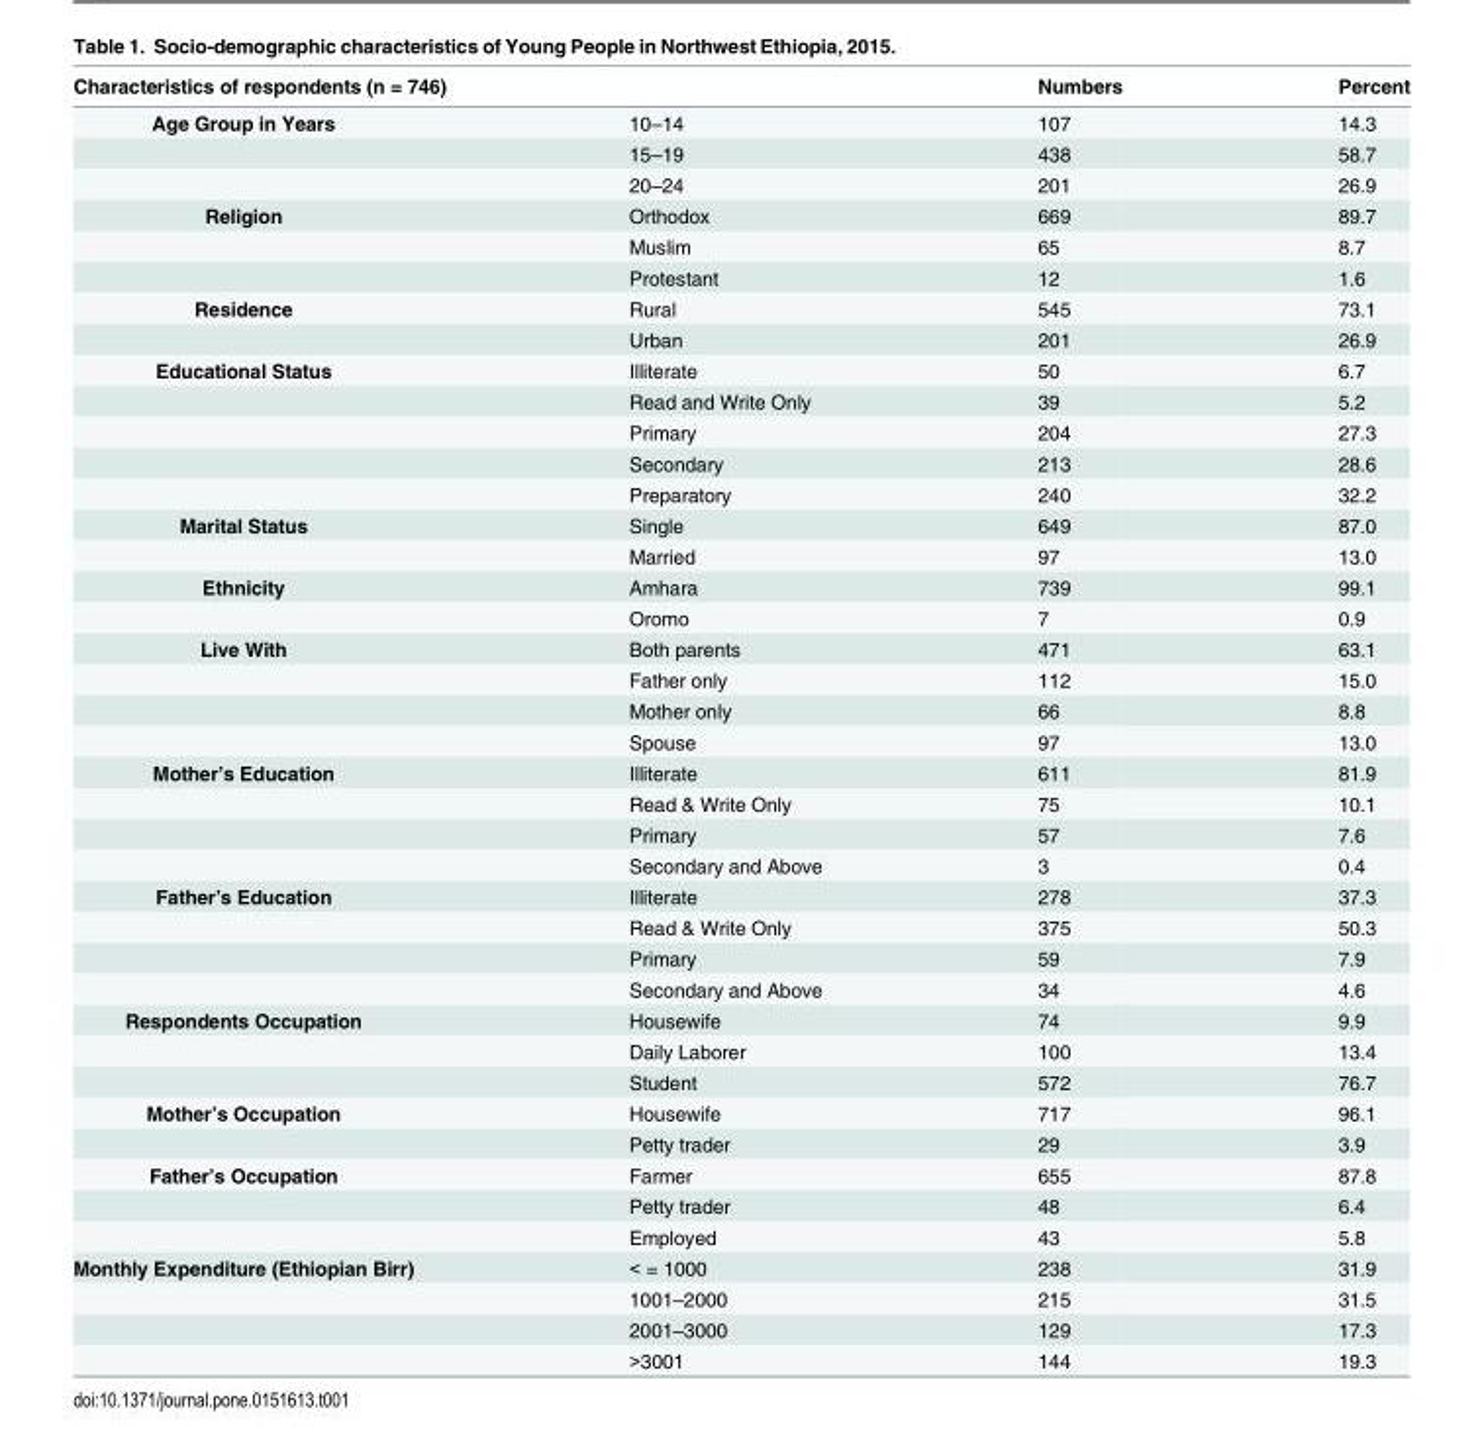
<table><thead><tr><td colspan="2">Characteristics of respondents (n = 746)</td><td rowspan="2">Numbers 107</td><td rowspan="2">Percent 14.3</td></tr><tr><td>Age Group in Years</td><td>10–14</td></tr></thead><tbody><tr><td></td><td>15–19</td><td>438</td><td>58.7</td></tr><tr><td></td><td>20–24</td><td>201</td><td>26.9</td></tr><tr><td rowspan="3">Religion</td><td>Orthodox</td><td>669</td><td>89.7</td></tr><tr><td>Muslim</td><td>65</td><td>8.7</td></tr><tr><td>Protestant</td><td>12</td><td>1.6</td></tr><tr><td rowspan="2">Residence</td><td>Rural</td><td>545</td><td>73.1</td></tr><tr><td>Urban</td><td>201</td><td>26.9</td></tr><tr><td rowspan="5">Educational Status</td><td>Illiterate</td><td>50</td><td>6.7</td></tr><tr><td>Read and Write Only</td><td>39</td><td>5.2</td></tr><tr><td>Primary</td><td>204</td><td>27.3</td></tr><tr><td>Secondary</td><td>213</td><td>28.6</td></tr><tr><td>Preparatory</td><td>240</td><td>32.2</td></tr><tr><td rowspan="2">Marital Status</td><td>Single</td><td>649</td><td>87.0</td></tr><tr><td>Married</td><td>97</td><td>13.0</td></tr><tr><td rowspan="2">Ethnicity</td><td>Amhara</td><td>739</td><td>99.1</td></tr><tr><td>Oromo</td><td>7</td><td>0.9</td></tr><tr><td rowspan="4">Live With</td><td>Both parents</td><td>471</td><td>63.1</td></tr><tr><td>Father only</td><td>112</td><td>15.0</td></tr><tr><td>Mother only</td><td>66</td><td>8.8</td></tr><tr><td>Spouse</td><td>97</td><td>13.0</td></tr><tr><td rowspan="4">Mother’s Education</td><td>Illiterate</td><td>611</td><td>81.9</td></tr><tr><td>Read &amp; Write Only</td><td>75</td><td>10.1</td></tr><tr><td>Primary</td><td>57</td><td>7.6</td></tr><tr><td>Secondary and Above</td><td>3</td><td>0.4</td></tr><tr><td rowspan="4">Father’s Education</td><td>Illiterate</td><td>278</td><td>37.3</td></tr><tr><td>Read &amp; Write Only</td><td>375</td><td>50.3</td></tr><tr><td>Primary</td><td>59</td><td>7.9</td></tr><tr><td>Secondary and Above</td><td>34</td><td>4.6</td></tr><tr><td rowspan="3">Respondents Occupation</td><td>Housewife</td><td>74</td><td>9.9</td></tr><tr><td>Daily Laborer</td><td>100</td><td>13.4</td></tr><tr><td>Student</td><td>572</td><td>76.7</td></tr><tr><td rowspan="2">Mother’s Occupation</td><td>Housewife</td><td>717</td><td>96.1</td></tr><tr><td>Petty trader</td><td>29</td><td>3.9</td></tr><tr><td rowspan="3">Father’s Occupation</td><td>Farmer</td><td>655</td><td>87.8</td></tr><tr><td>Petty trader</td><td>48</td><td>6.4</td></tr><tr><td>Employed</td><td>43</td><td>5.8</td></tr><tr><td rowspan="4">Monthly Expenditure (Ethiopian Birr)</td><td>&lt; = 1000</td><td>238</td><td>31.9</td></tr><tr><td>1001–2000</td><td>215</td><td>31.5</td></tr><tr><td>2001–3000</td><td>129</td><td>17.3</td></tr><tr><td>&gt;3001</td><td>144</td><td>19.3</td></tr></tbody></table>